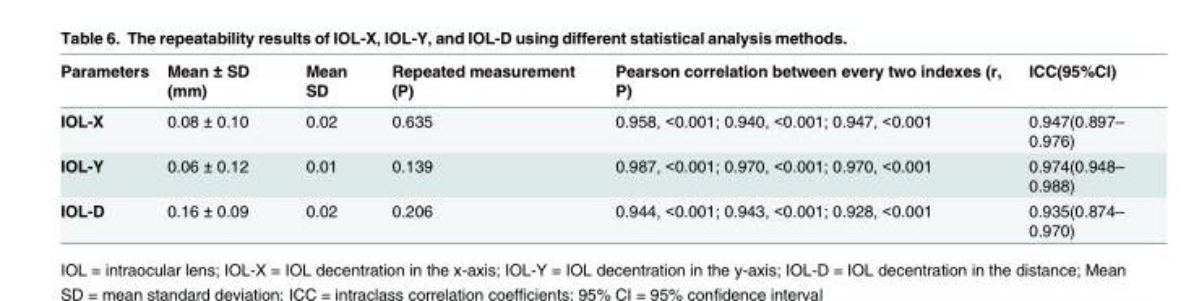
<table><thead><tr><td>Parameters</td><td>Mean ± SD (mm)</td><td>Mean SD</td><td>Repeated measurement (P)</td><td>Pearson correlation between every two indexes (r, P)</td><td>ICC(95%CI)</td></tr></thead><tbody><tr><td>IOL-X</td><td>0.08 ± 0.10</td><td>0.02</td><td>0.635</td><td>0.958, &lt;0.001; 0.940, &lt;0.001; 0.947, &lt;0.001</td><td>0.947(0.897– 0.976)</td></tr><tr><td>IOL-Y</td><td>0.06 ± 0.12</td><td>0.01</td><td>0.139</td><td>0.987, &lt;0.001; 0.970, &lt;0.001; 0.970, &lt;0.001</td><td>0.974(0.948– 0.988)</td></tr><tr><td>IOL-D</td><td>0.16 ± 0.09</td><td>0.02</td><td>0.206</td><td>0.944, &lt;0.001; 0.943, &lt;0.001; 0.928, &lt;0.001</td><td>0.935(0.874– 0.970)</td></tr></tbody></table>